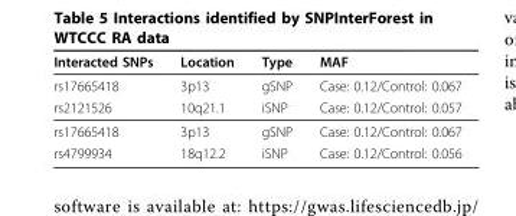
<table><thead><tr><td>Interacted SNPs</td><td>Location</td><td>Type</td><td>MAF</td></tr></thead><tbody><tr><td>rs17665418</td><td>3p13</td><td>gSNP</td><td>Case: 0.12/Control: 0.067</td></tr><tr><td>rs2121526</td><td>10q21.1</td><td>iSNP</td><td>Case: 0.12/Control: 0.057</td></tr><tr><td>rs17665418</td><td>3p13</td><td>gSNP</td><td>Case: 0.12/Control: 0.067</td></tr><tr><td>rs4799934</td><td>18q12.2</td><td>iSNP</td><td>Case: 0.12/Control: 0.056</td></tr></tbody></table>